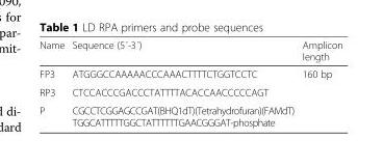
<table><thead><tr><td>Name</td><td>Sequence (5´-3´)</td><td>Amplicon length</td></tr></thead><tbody><tr><td>FP3</td><td>ATGGGCCAAAAACCCAAACTTTTCTGGTCCTC</td><td rowspan="3">160 bp</td></tr><tr><td>RP3</td><td>CTCCACCCGACCCTATTTTACACCAACCCCCAGT</td></tr><tr><td>P</td><td>CGCCTCGGAGCCGAT(BHQ1dT)(Tetrahydrofuran)(FAMdT) TGGCATTTTTGGCTATTTTTTGAACGGGAT-phosphate</td></tr></tbody></table>